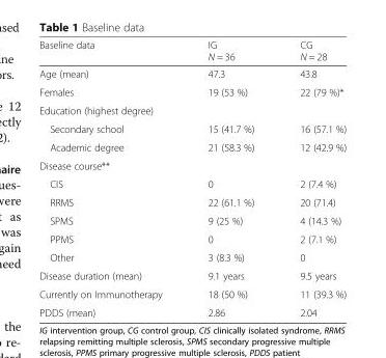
<table><thead><tr><td>Baseline data</td><td>IG N = 36</td><td>CG N = 28</td></tr></thead><tbody><tr><td>Age (mean)</td><td>47.3</td><td>43.8</td></tr><tr><td>Females</td><td>19 (53 %)</td><td>22 (79 %)*</td></tr><tr><td colspan="3">Education (highest degree)</td></tr><tr><td>Secondary school</td><td>15 (41.7 %)</td><td>16 (57.1 %)</td></tr><tr><td>Academic degree</td><td>21 (58.3 %)</td><td>12 (42.9 %)</td></tr><tr><td colspan="3">Disease course**</td></tr><tr><td>CIS</td><td>0</td><td>2 (7.4 %)</td></tr><tr><td>RRMS</td><td>22 (61.1 %)</td><td>20 (71.4)</td></tr><tr><td>SPMS</td><td>9 (25 %)</td><td>4 (14.3 %)</td></tr><tr><td>PPMS</td><td>0</td><td>2 (7.1 %)</td></tr><tr><td>Other</td><td>3 (8.3 %)</td><td>0</td></tr><tr><td>Disease duration (mean)</td><td>9.1 years</td><td>9.5 years</td></tr><tr><td>Currently on Immunotherapy</td><td>18 (50 %)</td><td>11 (39.3 %)</td></tr><tr><td>PDDS (mean)</td><td>2.86</td><td>2.04</td></tr></tbody></table>